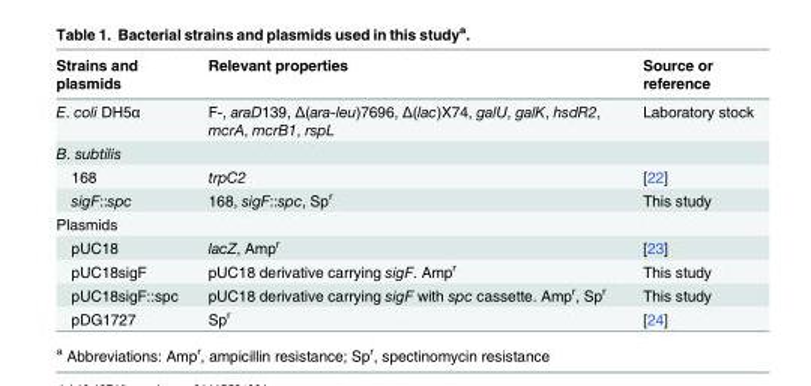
<table><thead><tr><td>Strains and plasmids</td><td>Relevant properties</td><td>Source or reference</td></tr></thead><tbody><tr><td>E. coli DH5α</td><td>F-, araD139, Δ(ara-leu)7696, Δ(lac)X74, galU, galK, hsdR2, mcrA, mcrB1, rspL</td><td>Laboratory stock</td></tr><tr><td colspan="3">B. subtilis</td></tr><tr><td>168</td><td>trpC2</td><td>[22]</td></tr><tr><td>sigF::spc</td><td>168, sigF::spc, Sp<sup>r</sup></td><td>This study</td></tr><tr><td colspan="3">Plasmids</td></tr><tr><td>pUC18</td><td>lacZ, Amp<sup>r</sup></td><td>[23]</td></tr><tr><td>pUC18sigF</td><td>pUC18 derivative carrying sigF. Amp<sup>r</sup></td><td>This study</td></tr><tr><td>pUC18sigF::spc</td><td>pUC18 derivative carrying sigF with spc cassette. Amp<sup>r</sup>, Sp<sup>r</sup></td><td>This study</td></tr><tr><td>pDG1727</td><td>Sp<sup>r</sup></td><td>[24]</td></tr></tbody></table>